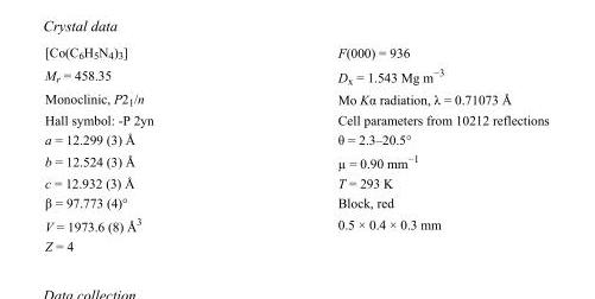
<table><tbody><tr><td>[Co(C<sub>6</sub>H<sub>5</sub>N<sub>4</sub>)<sub>3</sub>]</td><td>F(000) = 936</td></tr><tr><td>M<sub>r</sub> = 458.35</td><td>D<sub>x</sub> = 1.543 Mg m<sup>−3</sup></td></tr><tr><td>Monoclinic, P2<sub>1</sub>/n</td><td>Mo Kα radiation, λ = 0.71073 Å</td></tr><tr><td>Hall symbol: -P 2yn</td><td>Cell parameters from 10212 reflections</td></tr><tr><td>a = 12.299 (3) Å</td><td>θ = 2.3–20.5°</td></tr><tr><td>b = 12.524 (3) Å</td><td>µ = 0.90 mm<sup>−1</sup></td></tr><tr><td>c = 12.932 (3) Å</td><td>T = 293 K</td></tr><tr><td>β = 97.773 (4)°</td><td>Block, red</td></tr><tr><td>V = 1973.6 (8) Å<sup>3</sup></td><td>0.5 × 0.4 × 0.3 mm</td></tr><tr><td>Z = 4</td><td></td></tr></tbody></table>